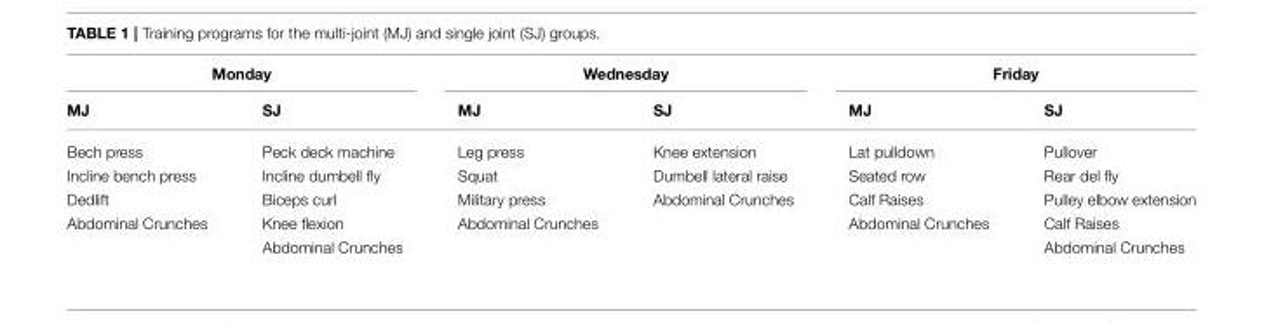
<table><thead><tr><td colspan="2">Monday</td><td colspan="2">Wednesday</td><td colspan="2">Friday</td></tr><tr><td>MJ</td><td>SJ</td><td>MJ</td><td>SJ</td><td>MJ</td><td>SJ</td></tr></thead><tbody><tr><td>Bech press</td><td>Peck deck machine</td><td>Leg press</td><td>Knee extension</td><td>Lat pulldown</td><td>Pullover</td></tr><tr><td>Incline bench press</td><td>Incline dumbell fly</td><td>Squat</td><td>Dumbell lateral raise</td><td>Seated row</td><td>Rear del fly</td></tr><tr><td>Dedlift</td><td>Biceps curl</td><td>Military press</td><td>Abdominal Crunches</td><td>Calf Raises</td><td>Pulley elbow extension</td></tr><tr><td rowspan="2">Abdominal Crunches</td><td>Knee flexion</td><td>Abdominal Crunches</td><td></td><td>Abdominal Crunches</td><td>Calf Raises</td></tr><tr><td>Abdominal Crunches</td><td></td><td></td><td></td><td>Abdominal Crunches</td></tr></tbody></table>